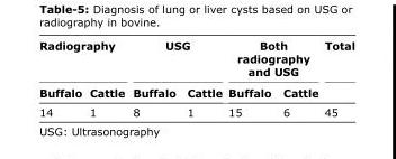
<table><thead><tr><td colspan="2">Radiography</td><td colspan="2">USG</td><td colspan="2">Both radiography and USG</td><td rowspan="2">Total</td></tr><tr><td>Buffalo</td><td>Cattle</td><td>Buffalo</td><td>Cattle</td><td>Buffalo</td><td>Cattle</td></tr></thead><tbody><tr><td>14</td><td>1</td><td>8</td><td>1</td><td>15</td><td>6</td><td>45</td></tr></tbody></table>